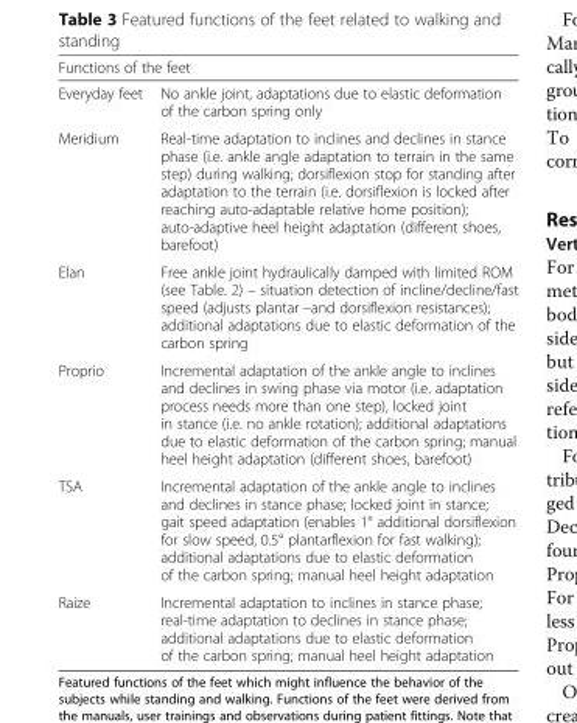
<table><thead><tr><td colspan="2">Functions of the feet</td></tr><tr><td>Everyday feet</td><td>No ankle joint, adaptations due to elastic deformation of the carbon spring only</td></tr></thead><tbody><tr><td>Meridium</td><td>Real-time adaptation to inclines and declines in stance phase (i.e. ankle angle adaptation to terrain in the same step) during walking; dorsiflexion stop for standing after adaptation to the terrain (i.e. dorsiflexion is locked after reaching auto-adaptable relative home position); auto-adaptive heel height adaptation (different shoes, barefoot)</td></tr><tr><td>Elan</td><td>Free ankle joint hydraulically damped with limited ROM (see Table. 2) – situation detection of incline/decline/fast speed (adjusts plantar –and dorsiflexion resistances); additional adaptations due to elastic deformation of the carbon spring</td></tr><tr><td>Proprio</td><td>Incremental adaptation of the ankle angle to inclines and declines in swing phase via motor (i.e. adaptation process needs more than one step), locked joint in stance (i.e. no ankle rotation); additional adaptations due to elastic deformation of the carbon spring; manual heel height adaptation (different shoes, barefoot)</td></tr><tr><td>TSA</td><td>Incremental adaptation of the ankle angle to inclines and declines in stance phase; locked joint in stance; gait speed adaptation (enables 1° additional dorsiflexion for slow speed, 0.5° plantarflexion for fast walking); additional adaptations due to elastic deformation of the carbon spring; manual heel height adaptation</td></tr><tr><td>Raize</td><td>Incremental adaptation to inclines in stance phase; real-time adaptation to declines in stance phase; additional adaptations due to elastic deformation of the carbon spring; manual heel height adaptation</td></tr></tbody></table>